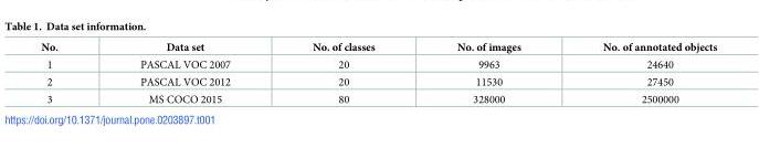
<table><thead><tr><td>No.</td><td>Data set</td><td>No. of classes</td><td>No. of images</td><td>No. of annotated objects</td></tr></thead><tbody><tr><td>1</td><td>PASCAL VOC 2007</td><td>20</td><td>9963</td><td>24640</td></tr><tr><td>2</td><td>PASCAL VOC 2012</td><td>20</td><td>11530</td><td>27450</td></tr><tr><td>3</td><td>MS COCO 2015</td><td>80</td><td>328000</td><td>2500000</td></tr></tbody></table>